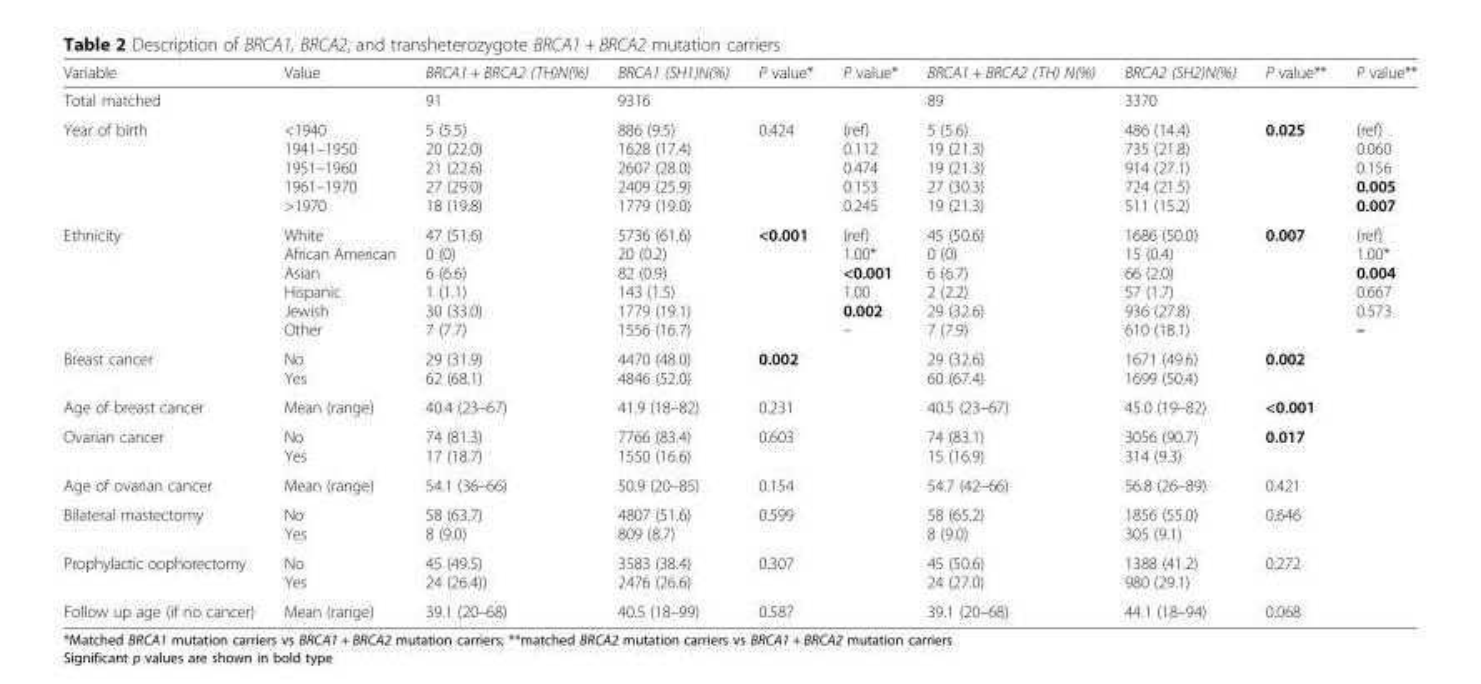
<table><thead><tr><td>Variable</td><td>Value</td><td>BRCA1 + BRCA2 (TH)N(%)</td><td>BRCA1 (SH1)N(%)</td><td>P value*</td><td>P value*</td><td>BRCA1 + BRCA2 (TH) N(%)</td><td>BRCA2 (SH2)N(%)</td><td>P value**</td><td>P value**</td></tr></thead><tbody><tr><td>Total matched</td><td></td><td>91</td><td>9316</td><td></td><td></td><td>89</td><td>3370</td><td></td><td></td></tr><tr><td>Year of birth</td><td>&lt;1940 1941–1950 1951–1960 1961–1970 &gt;1970</td><td>5 (5.5) 20 (22.0) 21 (22.6) 27 (29.0) 18 (19.8)</td><td>886 (9.5) 1628 (17.4) 2607 (28.0) 2409 (25.9) 1779 (19.0)</td><td>0.424</td><td>(ref) 0.112 0.474 0.153 0.245</td><td>5 (5.6) 19 (21.3) 19 (21.3) 27 (30.3) 19 (21.3)</td><td>486 (14.4) 735 (21.8) 914 (27.1) 724 (21.5) 511 (15.2)</td><td>0.025</td><td>(ref) 0.060 0.156 0.005 0.007</td></tr><tr><td>Ethnicity</td><td>White African American Asian Hispanic Jewish Other</td><td>47 (51.6) 0 (0) 6 (6.6) 1 (1.1) 30 (33.0) 7 (7.7)</td><td>5736 (61.6) 20 (0.2) 82 (0.9) 143 (1.5) 1779 (19.1) 1556 (16.7)</td><td>&lt;0.001</td><td>(ref) 1.00* &lt;0.001 1.00 0.002 –</td><td>45 (50.6) 0 (0) 6 (6.7) 2 (2.2) 29 (32.6) 7 (7.9)</td><td>1686 (50.0) 15 (0.4) 66 (2.0) 57 (1.7) 936 (27.8) 610 (18.1)</td><td>0.007</td><td>(ref) 1.00* 0.004 0.667 0.573 –</td></tr><tr><td>Breast cancer</td><td>No Yes</td><td>29 (31.9) 62 (68.1)</td><td>4470 (48.0) 4846 (52.0)</td><td>0.002</td><td></td><td>29 (32.6) 60 (67.4)</td><td>1671 (49.6) 1699 (50.4)</td><td>0.002</td><td></td></tr><tr><td>Age of breast cancer</td><td>Mean (range)</td><td>40.4 (23–67)</td><td>41.9 (18–82)</td><td>0.231</td><td></td><td>40.5 (23–67)</td><td>45.0 (19–82)</td><td>&lt;0.001</td><td></td></tr><tr><td>Ovarian cancer</td><td>No Yes</td><td>74 (81.3) 17 (18.7)</td><td>7766 (83.4) 1550 (16.6)</td><td>0.603</td><td></td><td>74 (83.1) 15 (16.9)</td><td>3056 (90.7) 314 (9.3)</td><td>0.017</td><td></td></tr><tr><td>Age of ovarian cancer</td><td>Mean (range)</td><td>54.1 (36–66)</td><td>50.9 (20–85)</td><td>0.154</td><td></td><td>54.7 (42–66)</td><td>56.8 (26–89)</td><td>0.421</td><td></td></tr><tr><td>Bilateral mastectomy</td><td>No Yes</td><td>58 (63.7) 8 (9.0)</td><td>4807 (51.6) 809 (8.7)</td><td>0.599</td><td></td><td>58 (65.2) 8 (9.0)</td><td>1856 (55.0) 305 (9.1)</td><td>0.646</td><td></td></tr><tr><td>Prophylactic oophorectomy</td><td>No Yes</td><td>45 (49.5) 24 (26.4))</td><td>3583 (38.4) 2476 (26.6)</td><td>0.307</td><td></td><td>45 (50.6) 24 (27.0)</td><td>1388 (41.2) 980 (29.1)</td><td>0.272</td><td></td></tr><tr><td>Follow up age (if no cancer)</td><td>Mean (range)</td><td>39.1 (20–68)</td><td>40.5 (18–99)</td><td>0.587</td><td></td><td>39.1 (20–68)</td><td>44.1 (18–94)</td><td>0.068</td><td></td></tr></tbody></table>